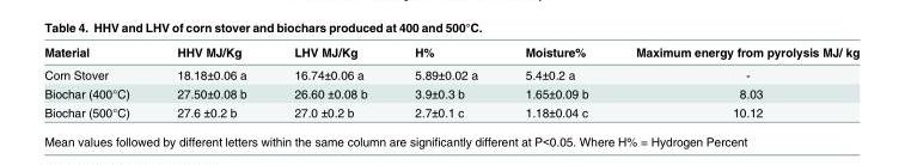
<table><thead><tr><td>Material</td><td>HHV MJ/Kg</td><td>LHV MJ/Kg</td><td>H%</td><td>Moisture%</td><td>Maximum energy from pyrolysis MJ/ kg</td></tr></thead><tbody><tr><td>Corn Stover</td><td>18.18±0.06 a</td><td>16.74±0.06 a</td><td>5.89±0.02 a</td><td>5.4±0.2 a</td><td>-</td></tr><tr><td>Biochar (400°C)</td><td>27.50±0.08 b</td><td>26.60 ±0.08 b</td><td>3.9±0.3 b</td><td>1.65±0.09 b</td><td>8.03</td></tr><tr><td>Biochar (500°C)</td><td>27.6 ±0.2 b</td><td>27.0 ±0.2 b</td><td>2.7±0.1 c</td><td>1.18±0.04 c</td><td>10.12</td></tr></tbody></table>